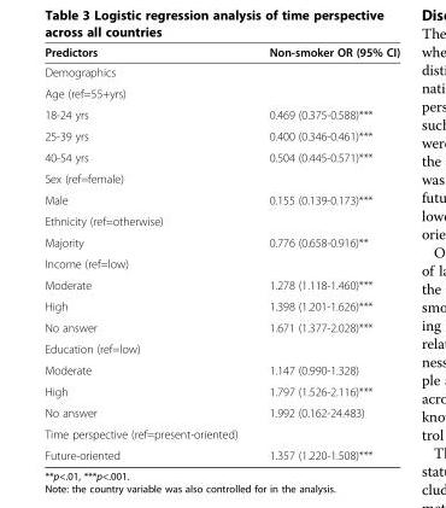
<table><thead><tr><td>Predictors</td><td>Non-smoker OR (95% CI)</td></tr></thead><tbody><tr><td colspan="2">Demographics</td></tr><tr><td colspan="2">Age (ref=55+yrs)</td></tr><tr><td>18-24 yrs</td><td>0.469 (0.375-0.588)***</td></tr><tr><td>25-39 yrs</td><td>0.400 (0.346-0.461)***</td></tr><tr><td>40-54 yrs</td><td>0.504 (0.445-0.571)***</td></tr><tr><td colspan="2">Sex (ref=female)</td></tr><tr><td>Male</td><td>0.155 (0.139-0.173)***</td></tr><tr><td colspan="2">Ethnicity (ref=otherwise)</td></tr><tr><td>Majority</td><td>0.776 (0.658-0.916)**</td></tr><tr><td colspan="2">Income (ref=low)</td></tr><tr><td>Moderate</td><td>1.278 (1.118-1.460)***</td></tr><tr><td>High</td><td>1.398 (1.201-1.626)***</td></tr><tr><td>No answer</td><td>1.671 (1.377-2.028)***</td></tr><tr><td colspan="2">Education (ref=low)</td></tr><tr><td>Moderate</td><td>1.147 (0.990-1.328)</td></tr><tr><td>High</td><td>1.797 (1.526-2.116)***</td></tr><tr><td>No answer</td><td>1.992 (0.162-24.483)</td></tr><tr><td colspan="2">Time perspective (ref=present-oriented)</td></tr><tr><td>Future-oriented</td><td>1.357 (1.220-1.508)***</td></tr></tbody></table>